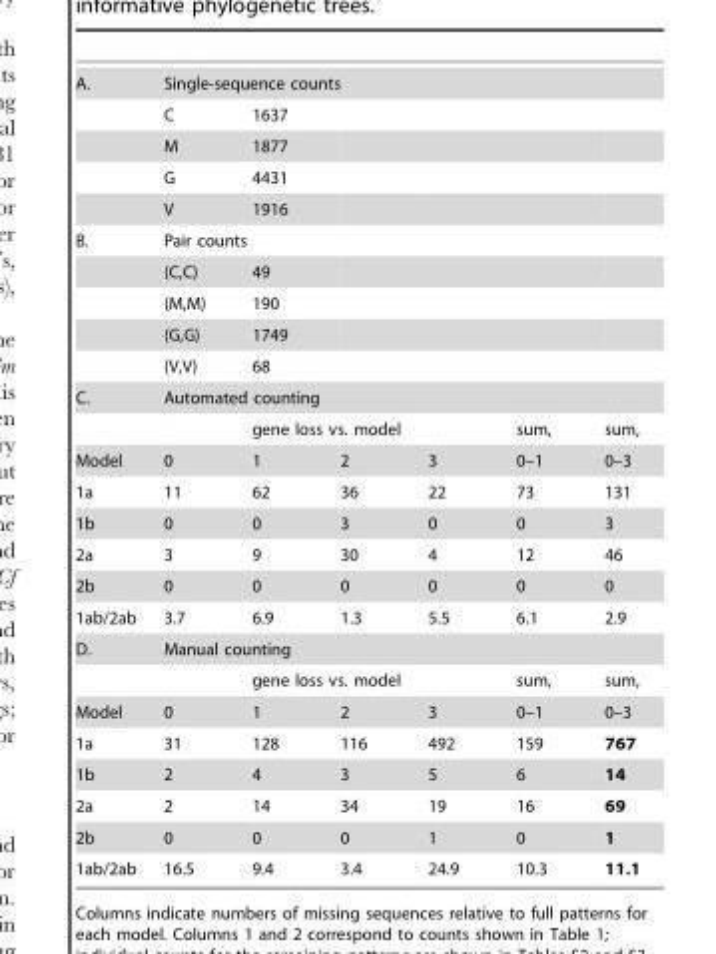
<table><tbody><tr><td rowspan="5">A.</td><td colspan="6">Single-sequence counts</td></tr><tr><td>C</td><td>1637</td><td></td><td></td><td></td><td></td></tr><tr><td>M</td><td>1877</td><td></td><td></td><td></td><td></td></tr><tr><td>G</td><td>4431</td><td></td><td></td><td></td><td></td></tr><tr><td>V</td><td>1916</td><td></td><td></td><td></td><td></td></tr><tr><td rowspan="5">B.</td><td colspan="2">Pair counts</td><td></td><td></td><td></td><td></td></tr><tr><td>(C,C)</td><td>49</td><td></td><td></td><td></td><td></td></tr><tr><td>(M,M)</td><td>190</td><td></td><td></td><td></td><td></td></tr><tr><td>(G,G)</td><td>1749</td><td></td><td></td><td></td><td></td></tr><tr><td>(V,V)</td><td>68</td><td></td><td></td><td></td><td></td></tr><tr><td rowspan="2">C.</td><td colspan="6">Automated counting</td></tr><tr><td></td><td colspan="3">gene loss vs. model</td><td>sum,</td><td>sum,</td></tr><tr><td>Model</td><td>0</td><td>1</td><td>2</td><td>3</td><td>0–1</td><td>0–3</td></tr><tr><td>1a</td><td>11</td><td>62</td><td>36</td><td>22</td><td>73</td><td>131</td></tr><tr><td>1b</td><td>0</td><td>0</td><td>3</td><td>0</td><td>0</td><td>3</td></tr><tr><td>2a</td><td>3</td><td>9</td><td>30</td><td>4</td><td>12</td><td>46</td></tr><tr><td>2b</td><td>0</td><td>0</td><td>0</td><td>0</td><td>0</td><td>0</td></tr><tr><td>1ab/2ab</td><td>3.7</td><td>6.9</td><td>1.3</td><td>5.5</td><td>6.1</td><td>2.9</td></tr><tr><td rowspan="2">D.</td><td colspan="6">Manual counting</td></tr><tr><td></td><td colspan="3">gene loss vs. model</td><td>sum,</td><td>sum,</td></tr><tr><td>Model</td><td>0</td><td>1</td><td>2</td><td>3</td><td>0–1</td><td>0–3</td></tr><tr><td>1a</td><td>31</td><td>128</td><td>116</td><td>492</td><td>159</td><td>767</td></tr><tr><td>1b</td><td>2</td><td>4</td><td>3</td><td>5</td><td>6</td><td>14</td></tr><tr><td>2a</td><td>2</td><td>14</td><td>34</td><td>19</td><td>16</td><td>69</td></tr><tr><td>2b</td><td>0</td><td>0</td><td>0</td><td>1</td><td>0</td><td>1</td></tr><tr><td>1ab/2ab</td><td>16.5</td><td>9.4</td><td>3.4</td><td>24.9</td><td>10.3</td><td>11.1</td></tr></tbody></table>